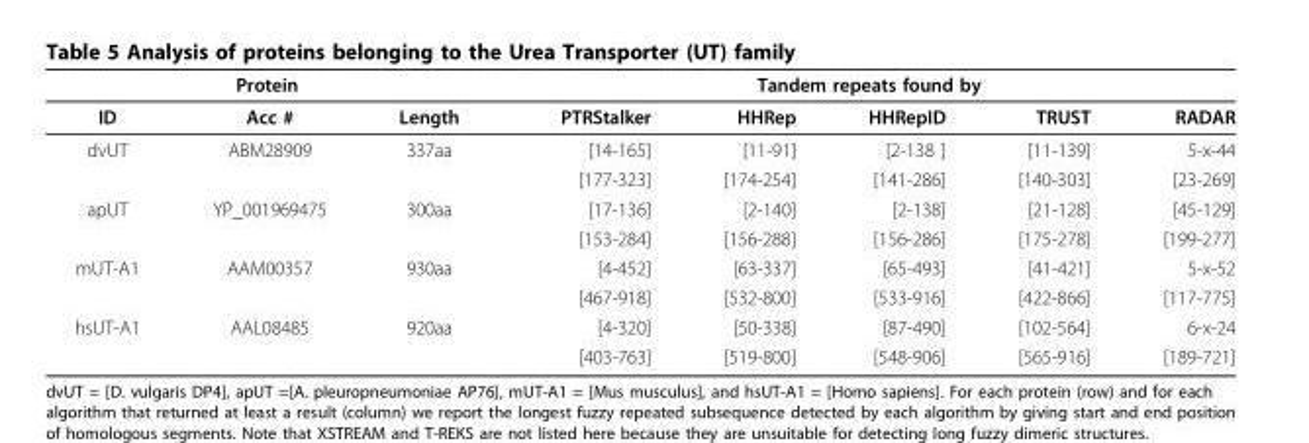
<table><thead><tr><td colspan="3">Protein</td><td colspan="5">Tandem repeats found by</td></tr><tr><td>ID</td><td>Acc #</td><td>Length</td><td>PTRStalker</td><td>HHRep</td><td>HHRepID</td><td>TRUST</td><td>RADAR</td></tr></thead><tbody><tr><td rowspan="2">dvUT</td><td>ABM28909</td><td>337aa</td><td>[14-165]</td><td>[11-91]</td><td>[2-138 ]</td><td>[11-139]</td><td>5-x-44</td></tr><tr><td></td><td></td><td>[177-323]</td><td>[174-254]</td><td>[141-286]</td><td>[140-303]</td><td>[23-269]</td></tr><tr><td rowspan="2">apUT</td><td>YP_001969475</td><td>300aa</td><td>[17-136]</td><td>[2-140]</td><td>[2-138]</td><td>[21-128]</td><td>[45-129]</td></tr><tr><td></td><td></td><td>[153-284]</td><td>[156-288]</td><td>[156-286]</td><td>[175-278]</td><td>[199-277]</td></tr><tr><td rowspan="2">mUT-A1</td><td>AAM00357</td><td>930aa</td><td>[4-452]</td><td>[63-337]</td><td>[65-493]</td><td>[41-421]</td><td>5-x-52</td></tr><tr><td></td><td></td><td>[467-918]</td><td>[532-800]</td><td>[533-916]</td><td>[422-866]</td><td>[117-775]</td></tr><tr><td rowspan="2">hsUT-A1</td><td>AAL08485</td><td>920aa</td><td>[4-320]</td><td>[50-338]</td><td>[87-490]</td><td>[102-564]</td><td>6-x-24</td></tr><tr><td></td><td></td><td>[403-763]</td><td>[519-800]</td><td>[548-906]</td><td>[565-916]</td><td>[189-721]</td></tr></tbody></table>